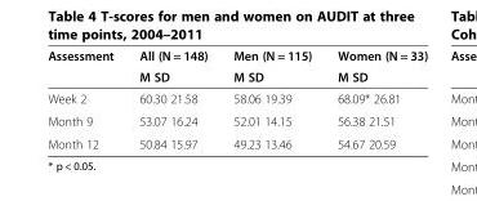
<table><thead><tr><td rowspan="2">Assessment</td><td rowspan="2">All (N = 148) M SD</td><td rowspan="2">Men (N = 115) M SD</td><td rowspan="2">Women (N = 33) M SD</td></tr><tr></tr></thead><tbody><tr><td>Week 2</td><td>60.30 21.58</td><td>58.06 19.39</td><td>68.09* 26.81</td></tr><tr><td>Month 9</td><td>53.07 16.24</td><td>52.01 14.15</td><td>56.38 21.51</td></tr><tr><td>Month 12</td><td>50.84 15.97</td><td>49.23 13.46</td><td>54.67 20.59</td></tr></tbody></table>